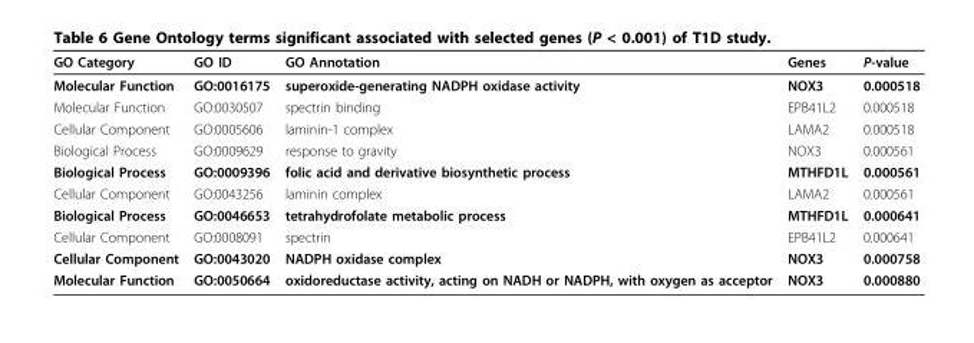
<table><thead><tr><td>GO Category</td><td>GO ID</td><td>GO Annotation</td><td>Genes</td><td>P-value</td></tr></thead><tbody><tr><td>Molecular Function</td><td>GO:0016175</td><td>superoxide-generating NADPH oxidase activity</td><td>NOX3</td><td>0.000518</td></tr><tr><td>Molecular Function</td><td>GO:0030507</td><td>spectrin binding</td><td>EPB41L2</td><td>0.000518</td></tr><tr><td>Cellular Component</td><td>GO:0005606</td><td>laminin-1 complex</td><td>LAMA2</td><td>0.000518</td></tr><tr><td>Biological Process</td><td>GO:0009629</td><td>response to gravity</td><td>NOX3</td><td>0.000561</td></tr><tr><td>Biological Process</td><td>GO:0009396</td><td>folic acid and derivative biosynthetic process</td><td>MTHFD1L</td><td>0.000561</td></tr><tr><td>Cellular Component</td><td>GO:0043256</td><td>laminin complex</td><td>LAMA2</td><td>0.000561</td></tr><tr><td>Biological Process</td><td>GO:0046653</td><td>tetrahydrofolate metabolic process</td><td>MTHFD1L</td><td>0.000641</td></tr><tr><td>Cellular Component</td><td>GO:0008091</td><td>spectrin</td><td>EPB41L2</td><td>0.000641</td></tr><tr><td>Cellular Component</td><td>GO:0043020</td><td>NADPH oxidase complex</td><td>NOX3</td><td>0.000758</td></tr><tr><td>Molecular Function</td><td>GO:0050664</td><td>oxidoreductase activity, acting on NADH or NADPH, with oxygen as acceptor</td><td>NOX3</td><td>0.000880</td></tr></tbody></table>